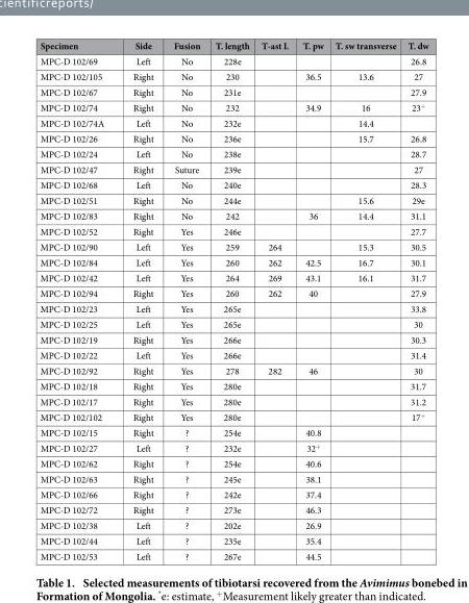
<table><thead><tr><td>Specimen</td><td>Side</td><td>Fusion</td><td>T. length</td><td>T-ast L</td><td>T. pw</td><td>T. sw transverse</td><td>T. dw</td></tr></thead><tbody><tr><td>MPC-D 102/69</td><td>Left</td><td>No</td><td>228e</td><td></td><td></td><td></td><td>26.8</td></tr><tr><td>MPC-D 102/105</td><td>Right</td><td>No</td><td>230</td><td></td><td>36.5</td><td>13.6</td><td>27</td></tr><tr><td>MPC-D 102/67</td><td>Right</td><td>No</td><td>231e</td><td></td><td></td><td></td><td>27.9</td></tr><tr><td>MPC-D 102/74</td><td>Right</td><td>No</td><td>232</td><td></td><td>34.9</td><td>16</td><td>23+</td></tr><tr><td>MPC-D 102/74A</td><td>Left</td><td>No</td><td>232e</td><td></td><td></td><td>14.4</td><td></td></tr><tr><td>MPC-D 102/26</td><td>Right</td><td>No</td><td>236e</td><td></td><td></td><td>15.7</td><td>26.8</td></tr><tr><td>MPC-D 102/24</td><td>Left</td><td>No</td><td>238e</td><td></td><td></td><td></td><td>28.7</td></tr><tr><td>MPC-D 102/47</td><td>Right</td><td>Suture</td><td>239e</td><td></td><td></td><td></td><td>27</td></tr><tr><td>MPC-D 102/68</td><td>Left</td><td>No</td><td>240e</td><td></td><td></td><td></td><td>28.3</td></tr><tr><td>MPC-D 102/51</td><td>Right</td><td>No</td><td>244e</td><td></td><td></td><td>15.6</td><td>29e</td></tr><tr><td>MPC-D 102/83</td><td>Right</td><td>No</td><td>242</td><td></td><td>36</td><td>14.4</td><td>31.1</td></tr><tr><td>MPC-D 102/52</td><td>Right</td><td>Yes</td><td>246e</td><td></td><td></td><td></td><td>27.7</td></tr><tr><td>MPC-D 102/90</td><td>Left</td><td>Yes</td><td>259</td><td>264</td><td></td><td>15.3</td><td>30.5</td></tr><tr><td>MPC-D 102/84</td><td>Left</td><td>Yes</td><td>260</td><td>262</td><td>42.5</td><td>16.7</td><td>30.1</td></tr><tr><td>MPC-D 102/42</td><td>Left</td><td>Yes</td><td>264</td><td>269</td><td>43.1</td><td>16.1</td><td>31.7</td></tr><tr><td>MPC-D 102/94</td><td>Right</td><td>Yes</td><td>260</td><td>262</td><td>40</td><td></td><td>27.9</td></tr><tr><td>MPC-D 102/23</td><td>Left</td><td>Yes</td><td>265e</td><td></td><td></td><td></td><td>33.8</td></tr><tr><td>MPC-D 102/25</td><td>Left</td><td>Yes</td><td>265e</td><td></td><td></td><td></td><td>30</td></tr><tr><td>MPC-D 102/19</td><td>Right</td><td>Yes</td><td>266e</td><td></td><td></td><td></td><td>30.3</td></tr><tr><td>MPC-D 102/22</td><td>Left</td><td>Yes</td><td>266e</td><td></td><td></td><td></td><td>31.4</td></tr><tr><td>MPC-D 102/92</td><td>Right</td><td>Yes</td><td>278</td><td>282</td><td>46</td><td></td><td>30</td></tr><tr><td>MPC-D 102/18</td><td>Right</td><td>Yes</td><td>280e</td><td></td><td></td><td></td><td>31.7</td></tr><tr><td>MPC-D 102/17</td><td>Right</td><td>Yes</td><td>280e</td><td></td><td></td><td></td><td>31.2</td></tr><tr><td>MPC-D 102/102</td><td>Right</td><td>Yes</td><td>280e</td><td></td><td></td><td></td><td>17+</td></tr><tr><td>MPC-D 102/15</td><td>Right</td><td>?</td><td>254e</td><td></td><td>40.8</td><td></td><td></td></tr><tr><td>MPC-D 102/27</td><td>Left</td><td>?</td><td>232e</td><td></td><td>32+</td><td></td><td></td></tr><tr><td>MPC-D 102/62</td><td>Right</td><td>?</td><td>254e</td><td></td><td>40.6</td><td></td><td></td></tr><tr><td>MPC-D 102/63</td><td>Right</td><td>?</td><td>245e</td><td></td><td>38.1</td><td></td><td></td></tr><tr><td>MPC-D 102/66</td><td>Right</td><td>?</td><td>242e</td><td></td><td>37.4</td><td></td><td></td></tr><tr><td>MPC-D 102/72</td><td>Right</td><td>?</td><td>273e</td><td></td><td>46.3</td><td></td><td></td></tr><tr><td>MPC-D 102/38</td><td>Left</td><td>?</td><td>202e</td><td></td><td>26.9</td><td></td><td></td></tr><tr><td>MPC-D 102/44</td><td>Left</td><td>?</td><td>235e</td><td></td><td>35.4</td><td></td><td></td></tr><tr><td>MPC-D 102/53</td><td>Left</td><td>?</td><td>267e</td><td></td><td>44.5</td><td></td><td></td></tr></tbody></table>